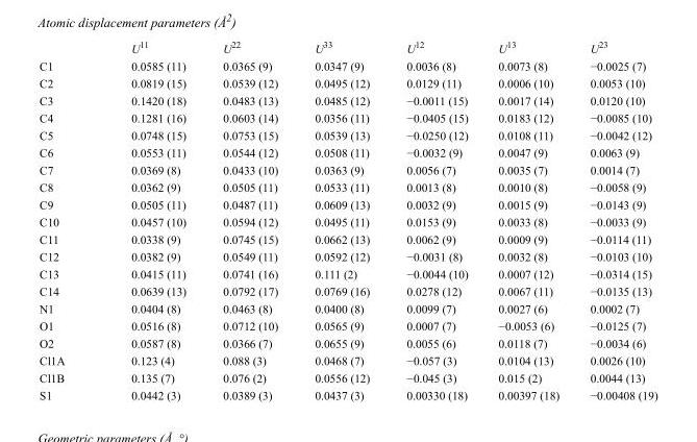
<table><thead><tr><td></td><td>U<sup>11</sup></td><td>U<sup>22</sup></td><td>U<sup>33</sup></td><td>U<sup>12</sup></td><td>U<sup>13</sup></td><td>U<sup>23</sup></td></tr></thead><tbody><tr><td>C1</td><td>0.0585 (11)</td><td>0.0365 (9)</td><td>0.0347 (9)</td><td>0.0036 (8)</td><td>0.0073 (8)</td><td>−0.0025 (7)</td></tr><tr><td>C2</td><td>0.0819 (15)</td><td>0.0539 (12)</td><td>0.0495 (12)</td><td>0.0129 (11)</td><td>0.0006 (10)</td><td>0.0053 (10)</td></tr><tr><td>C3</td><td>0.1420 (18)</td><td>0.0483 (13)</td><td>0.0485 (12)</td><td>−0.0011 (15)</td><td>0.0017 (14)</td><td>0.0120 (10)</td></tr><tr><td>C4</td><td>0.1281 (16)</td><td>0.0603 (14)</td><td>0.0356 (11)</td><td>−0.0405 (15)</td><td>0.0183 (12)</td><td>−0.0085 (10)</td></tr><tr><td>C5</td><td>0.0748 (15)</td><td>0.0753 (15)</td><td>0.0539 (13)</td><td>−0.0250 (12)</td><td>0.0108 (11)</td><td>−0.0042 (12)</td></tr><tr><td>C6</td><td>0.0553 (11)</td><td>0.0544 (12)</td><td>0.0508 (11)</td><td>−0.0032 (9)</td><td>0.0047 (9)</td><td>0.0063 (9)</td></tr><tr><td>C7</td><td>0.0369 (8)</td><td>0.0433 (10)</td><td>0.0363 (9)</td><td>0.0056 (7)</td><td>0.0035 (7)</td><td>0.0014 (7)</td></tr><tr><td>C8</td><td>0.0362 (9)</td><td>0.0505 (11)</td><td>0.0533 (11)</td><td>0.0013 (8)</td><td>0.0010 (8)</td><td>−0.0058 (9)</td></tr><tr><td>C9</td><td>0.0505 (11)</td><td>0.0487 (11)</td><td>0.0609 (13)</td><td>0.0032 (9)</td><td>0.0015 (9)</td><td>−0.0143 (9)</td></tr><tr><td>C10</td><td>0.0457 (10)</td><td>0.0594 (12)</td><td>0.0495 (11)</td><td>0.0153 (9)</td><td>0.0033 (8)</td><td>−0.0033 (9)</td></tr><tr><td>C11</td><td>0.0338 (9)</td><td>0.0745 (15)</td><td>0.0662 (13)</td><td>0.0062 (9)</td><td>0.0009 (9)</td><td>−0.0114 (11)</td></tr><tr><td>C12</td><td>0.0382 (9)</td><td>0.0549 (11)</td><td>0.0592 (12)</td><td>−0.0031 (8)</td><td>0.0032 (8)</td><td>−0.0103 (10)</td></tr><tr><td>C13</td><td>0.0415 (11)</td><td>0.0741 (16)</td><td>0.111 (2)</td><td>−0.0044 (10)</td><td>0.0007 (12)</td><td>−0.0314 (15)</td></tr><tr><td>C14</td><td>0.0639 (13)</td><td>0.0792 (17)</td><td>0.0769 (16)</td><td>0.0278 (12)</td><td>0.0067 (11)</td><td>−0.0135 (13)</td></tr><tr><td>N1</td><td>0.0404 (8)</td><td>0.0463 (8)</td><td>0.0400 (8)</td><td>0.0099 (7)</td><td>0.0027 (6)</td><td>0.0002 (7)</td></tr><tr><td>O1</td><td>0.0516 (8)</td><td>0.0712 (10)</td><td>0.0565 (9)</td><td>0.0007 (7)</td><td>−0.0053 (6)</td><td>−0.0125 (7)</td></tr><tr><td>O2</td><td>0.0587 (8)</td><td>0.0366 (7)</td><td>0.0655 (9)</td><td>0.0055 (6)</td><td>0.0118 (7)</td><td>−0.0034 (6)</td></tr><tr><td>Cl1A</td><td>0.123 (4)</td><td>0.088 (3)</td><td>0.0468 (7)</td><td>−0.057 (3)</td><td>0.0104 (13)</td><td>0.0026 (10)</td></tr><tr><td>Cl1B</td><td>0.135 (7)</td><td>0.076 (2)</td><td>0.0556 (12)</td><td>−0.045 (3)</td><td>0.015 (2)</td><td>0.0044 (13)</td></tr><tr><td>S1</td><td>0.0442 (3)</td><td>0.0389 (3)</td><td>0.0437 (3)</td><td>0.00330 (18)</td><td>0.00397 (18)</td><td>−0.00408 (19)</td></tr></tbody></table>